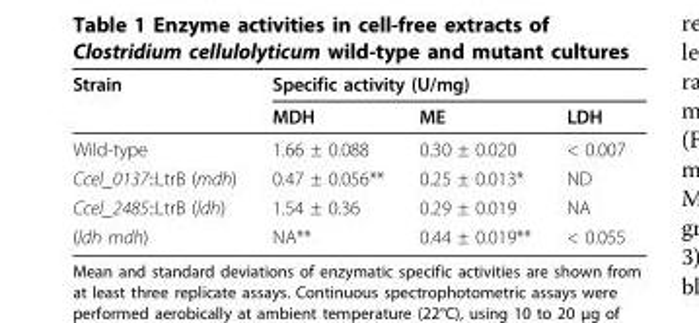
<table><thead><tr><td rowspan="2">Strain</td><td colspan="3">Specific activity (U/mg)</td></tr><tr><td>MDH</td><td>ME</td><td>LDH</td></tr></thead><tbody><tr><td>Wild-type</td><td>1.66 ± 0.088</td><td>0.30 ± 0.020</td><td>&lt; 0.007</td></tr><tr><td>Ccel_0137::LtrB (mdh)</td><td>0.47 ± 0.056**</td><td>0.25 ± 0.013*</td><td>ND</td></tr><tr><td>Ccel_2485::LtrB (ldh)</td><td>1.54 ± 0.36</td><td>0.29 ± 0.019</td><td>NA</td></tr><tr><td>(ldh mdh)</td><td>NA**</td><td>0.44 ± 0.019**</td><td>&lt; 0.055</td></tr></tbody></table>